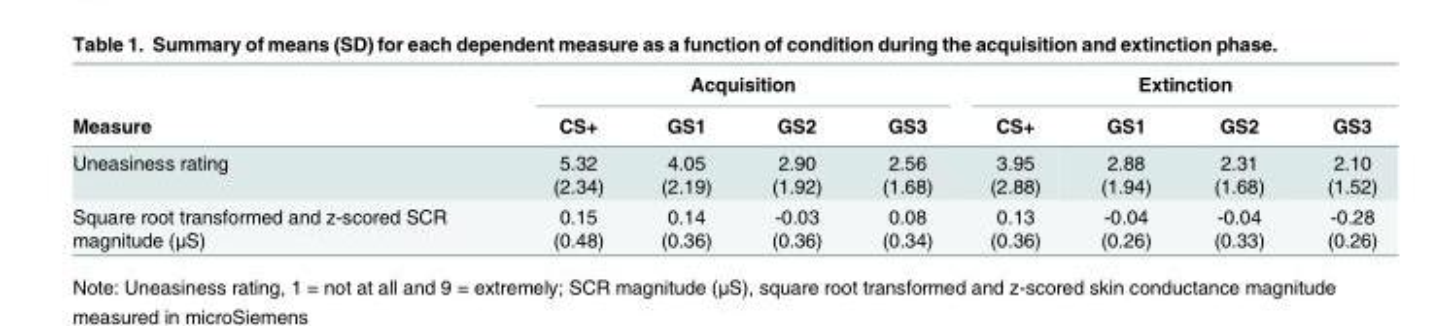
<table><thead><tr><td rowspan="2">Measure</td><td colspan="4">Acquisition</td><td colspan="4">Extinction</td></tr><tr><td>CS+</td><td>GS1</td><td>GS2</td><td>GS3</td><td>CS+</td><td>GS1</td><td>GS2</td><td>GS3</td></tr></thead><tbody><tr><td>Uneasiness rating</td><td>5.32 (2.34)</td><td>4.05 (2.19)</td><td>2.90 (1.92)</td><td>2.56 (1.68)</td><td>3.95 (2.88)</td><td>2.88 (1.94)</td><td>2.31 (1.68)</td><td>2.10 (1.52)</td></tr><tr><td>Square root transformed and z-scored SCR magnitude (μS)</td><td>0.15 (0.48)</td><td>0.14 (0.36)</td><td>-0.03 (0.36)</td><td>0.08 (0.34)</td><td>0.13 (0.36)</td><td>-0.04 (0.26)</td><td>-0.04 (0.33)</td><td>-0.28 (0.26)</td></tr></tbody></table>